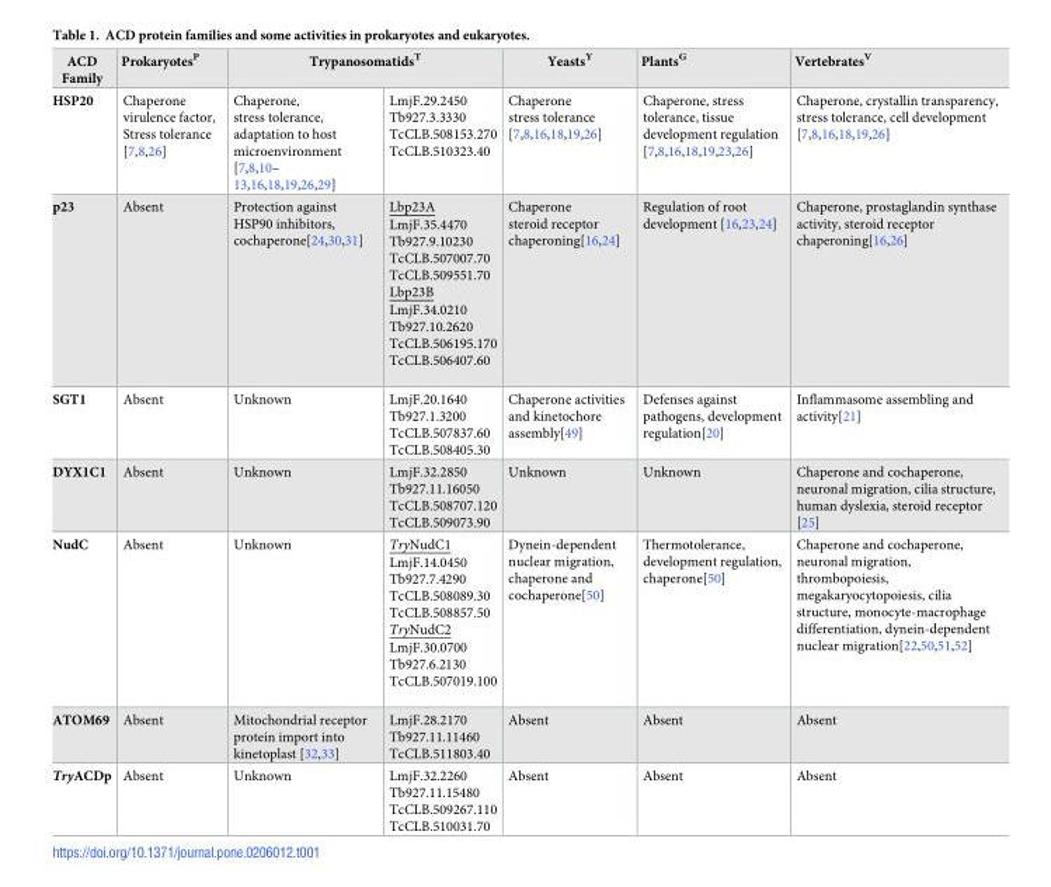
<table><thead><tr><td rowspan="2">ACD Family HSP20</td><td rowspan="2">Prokaryotes<sup>P</sup> Chaperone virulence factor, Stress tolerance [7,8,26]</td><td colspan="2">Trypanosomatids<sup>T</sup></td><td rowspan="2">Yeasts<sup>Y</sup> Chaperone stress tolerance [7,8,16,18,19,26]</td><td rowspan="2">Plants<sup>G</sup> Chaperone, stress tolerance, tissue development regulation [7,8,16,18,19,23,26]</td><td rowspan="2">Vertebrates<sup>V</sup> Chaperone, crystallin transparency, stress tolerance, cell development [7,8,16,18,19,26]</td></tr><tr><td>Chaperone, stress tolerance, adaptation to host microenvironment [7,8,10– 13,16,18,19,26,29]</td><td>LmjF.29.2450 Tb927.3.3330 TcCLB.508153.270 TcCLB.510323.40</td></tr></thead><tbody><tr><td>p23</td><td>Absent</td><td>Protection against HSP90 inhibitors, cochaperone[24,30,31]</td><td>Lbp23A LmjF.35.4470 Tb927.9.10230 TcCLB.507007.70 TcCLB.509551.70 Lbp23B LmjF.34.0210 Tb927.10.2620 TcCLB.506195.170 TcCLB.506407.60</td><td>Chaperone steroid receptor chaperoning[16,24]</td><td>Regulation of root development [16,23,24]</td><td>Chaperone, prostaglandin synthase activity, steroid receptor chaperoning[16,26]</td></tr><tr><td>SGT1</td><td>Absent</td><td>Unknown</td><td>LmjF.20.1640 Tb927.1.3200 TcCLB.507837.60 TcCLB.508405.30</td><td>Chaperone activities and kinetochore assembly[49]</td><td>Defenses against pathogens, development regulation[20]</td><td>Inflammasome assembling and activity[21]</td></tr><tr><td>DYX1C1</td><td>Absent</td><td>Unknown</td><td>LmjF.32.2850 Tb927.11.16050 TcCLB.508707.120 TcCLB.509073.90</td><td>Unknown</td><td>Unknown</td><td>Chaperone and cochaperone, neuronal migration, cilia structure, human dyslexia, steroid receptor [25]</td></tr><tr><td>NudC</td><td>Absent</td><td>Unknown</td><td>TryNudC1 LmjF.14.0450 Tb927.7.4290 TcCLB.508089.30 TcCLB.508857.50 TryNudC2 LmjF.30.0700 Tb927.6.2130 TcCLB.507019.100</td><td>Dynein-dependent nuclear migration, chaperone and cochaperone[50]</td><td>Thermotolerance, development regulation, chaperone[50]</td><td>Chaperone and cochaperone, neuronal migration, thrombopoiesis, megakaryocytopoiesis, cilia structure, monocyte-macrophage differentiation, dynein-dependent nuclear migration[22,50,51,52]</td></tr><tr><td>ATOM69</td><td>Absent</td><td>Mitochondrial receptor protein import into kinetoplast [32,33]</td><td>LmjF.28.2170 Tb927.11.11460 TcCLB.511803.40</td><td>Absent</td><td>Absent</td><td>Absent</td></tr><tr><td>TryACDp</td><td>Absent</td><td>Unknown</td><td>LmjF.32.2260 Tb927.11.15480 TcCLB.509267.110 TcCLB.510031.70</td><td>Absent</td><td>Absent</td><td>Absent</td></tr></tbody></table>